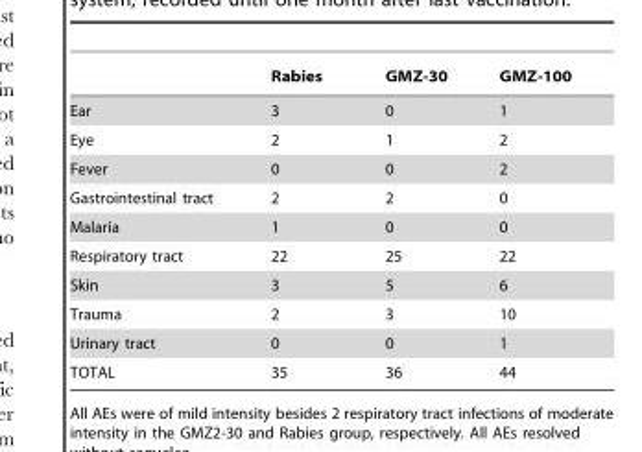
<table><thead><tr><td></td><td>Rabies</td><td>GMZ-30</td><td>GMZ-100</td></tr></thead><tbody><tr><td>Ear</td><td>3</td><td>0</td><td>1</td></tr><tr><td>Eye</td><td>2</td><td>1</td><td>2</td></tr><tr><td>Fever</td><td>0</td><td>0</td><td>2</td></tr><tr><td>Gastrointestinal tract</td><td>2</td><td>2</td><td>0</td></tr><tr><td>Malaria</td><td>1</td><td>0</td><td>0</td></tr><tr><td>Respiratory tract</td><td>22</td><td>25</td><td>22</td></tr><tr><td>Skin</td><td>3</td><td>5</td><td>6</td></tr><tr><td>Trauma</td><td>2</td><td>3</td><td>10</td></tr><tr><td>Urinary tract</td><td>0</td><td>0</td><td>1</td></tr><tr><td>TOTAL</td><td>35</td><td>36</td><td>44</td></tr></tbody></table>